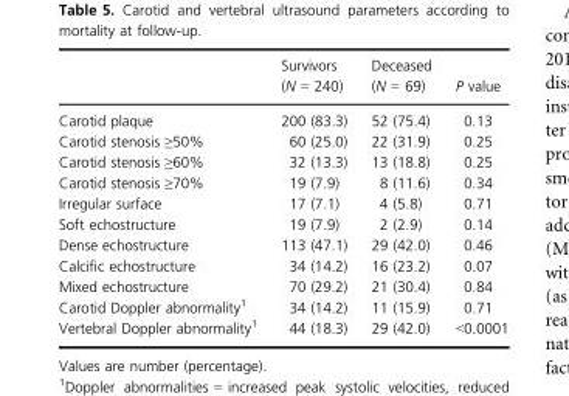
<table><thead><tr><td></td><td>Survivors (N = 240)</td><td>Deceased (N = 69)</td><td>P value</td></tr></thead><tbody><tr><td>Carotid plaque</td><td>200 (83.3)</td><td>52 (75.4)</td><td>0.13</td></tr><tr><td>Carotid stenosis ≥50%</td><td>60 (25.0)</td><td>22 (31.9)</td><td>0.25</td></tr><tr><td>Carotid stenosis ≥60%</td><td>32 (13.3)</td><td>13 (18.8)</td><td>0.25</td></tr><tr><td>Carotid stenosis ≥70%</td><td>19 (7.9)</td><td>8 (11.6)</td><td>0.34</td></tr><tr><td>Irregular surface</td><td>17 (7.1)</td><td>4 (5.8)</td><td>0.71</td></tr><tr><td>Soft echostructure</td><td>19 (7.9)</td><td>2 (2.9)</td><td>0.14</td></tr><tr><td>Dense echostructure</td><td>113 (47.1)</td><td>29 (42.0)</td><td>0.46</td></tr><tr><td>Calcific echostructure</td><td>34 (14.2)</td><td>16 (23.2)</td><td>0.07</td></tr><tr><td>Mixed echostructure</td><td>70 (29.2)</td><td>21 (30.4)</td><td>0.84</td></tr><tr><td>Carotid Doppler abnormality1</td><td>34 (14.2)</td><td>11 (15.9)</td><td>0.71</td></tr><tr><td>Vertebral Doppler abnormality1</td><td>44 (18.3)</td><td>29 (42.0)</td><td>&lt;0.0001</td></tr></tbody></table>